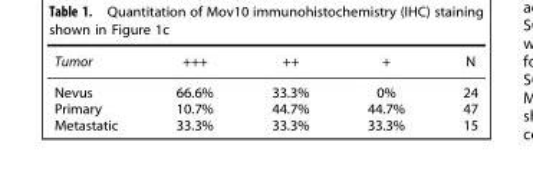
<table><thead><tr><td>Tumor</td><td>+++</td><td>++</td><td>+</td><td>N</td></tr></thead><tbody><tr><td>Nevus</td><td>66.6%</td><td>33.3%</td><td>0%</td><td>24</td></tr><tr><td>Primary</td><td>10.7%</td><td>44.7%</td><td>44.7%</td><td>47</td></tr><tr><td>Metastatic</td><td>33.3%</td><td>33.3%</td><td>33.3%</td><td>15</td></tr></tbody></table>